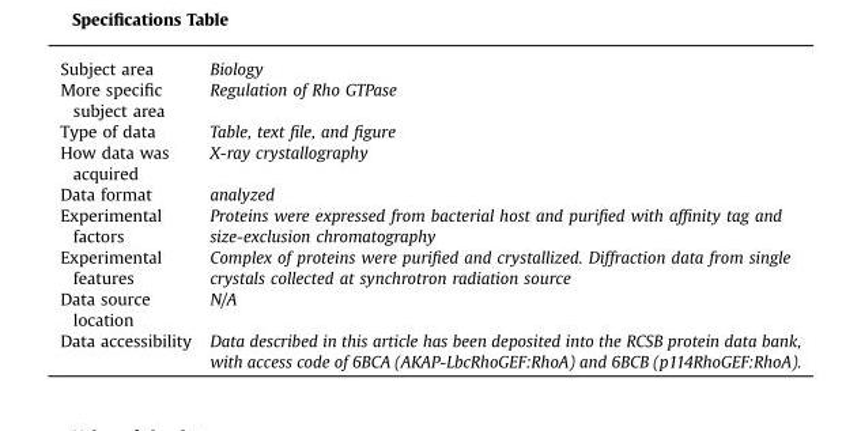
<table><tbody><tr><td>Subject area</td><td>Biology</td></tr><tr><td>More specific subject area</td><td>Regulation of Rho GTPase</td></tr><tr><td>Type of data</td><td>Table, text file, and figure</td></tr><tr><td>How data was acquired</td><td>X-ray crystallography</td></tr><tr><td>Data format</td><td>analyzed</td></tr><tr><td>Experimental factors</td><td>Proteins were expressed from bacterial host and purified with affinity tag and size-exclusion chromatography</td></tr><tr><td>Experimental features</td><td>Complex of proteins were purified and crystallized. Diffraction data from single crystals collected at synchrotron radiation source</td></tr><tr><td>Data source location</td><td>N/A</td></tr><tr><td>Data accessibility</td><td>Data described in this article has been deposited into the RCSB protein data bank, with access code of 6BCA (AKAP-LbcRhoGEF:RhoA) and 6BCB (p114RhoGEF:RhoA).</td></tr></tbody></table>